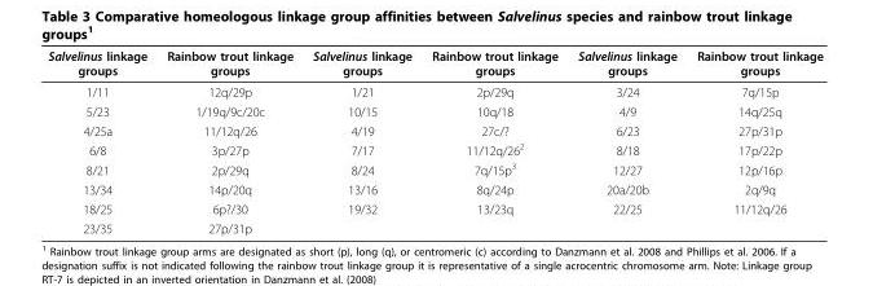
<table><thead><tr><td>Salvelinus linkage groups</td><td>Rainbow trout linkage groups</td><td>Salvelinus linkage groups</td><td>Rainbow trout linkage groups</td><td>Salvelinus linkage groups</td><td>Rainbow trout linkage groups</td></tr></thead><tbody><tr><td>1/11</td><td>12q/29p</td><td>1/21</td><td>2p/29q</td><td>3/24</td><td>7q/15p</td></tr><tr><td>5/23</td><td>1/19q/9c/20c</td><td>10/15</td><td>10q/18</td><td>4/9</td><td>14q/25q</td></tr><tr><td>4/25a</td><td>11/12q/26</td><td>4/19</td><td>27c/?</td><td>6/23</td><td>27p/31p</td></tr><tr><td>6/8</td><td>3p/27p</td><td>7/17</td><td>11/12q/26<sup>2</sup></td><td>8/18</td><td>17p/22p</td></tr><tr><td>8/21</td><td>2p/29q</td><td>8/24</td><td>7q/15p<sup>3</sup></td><td>12/27</td><td>12p/16p</td></tr><tr><td>13/34</td><td>14p/20q</td><td>13/16</td><td>8q/24p</td><td>20a/20b</td><td>2q/9q</td></tr><tr><td>18/25</td><td>6p?/30</td><td>19/32</td><td>13/23q</td><td>22/25</td><td>11/12q/26</td></tr><tr><td>23/35</td><td>27p/31p</td><td></td><td></td><td></td><td></td></tr></tbody></table>